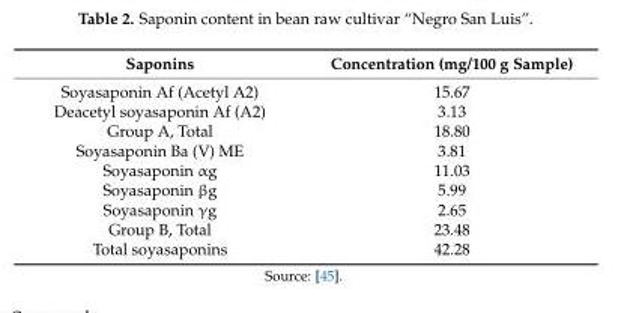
<table><thead><tr><td>Saponins</td><td>Concentration (mg/100 g Sample)</td></tr></thead><tbody><tr><td>Soyasaponin Af (Acetyl A2)</td><td>15.67</td></tr><tr><td>Deacetyl soyasaponin Af (A2)</td><td>3.13</td></tr><tr><td>Group A, Total</td><td>18.80</td></tr><tr><td>Soyasaponin Ba (V) ME</td><td>3.81</td></tr><tr><td>Soyasaponin αg</td><td>11.03</td></tr><tr><td>Soyasaponin βg</td><td>5.99</td></tr><tr><td>Soyasaponin γg</td><td>2.65</td></tr><tr><td>Group B, Total</td><td>23.48</td></tr><tr><td>Total soyasaponins</td><td>42.28</td></tr></tbody></table>